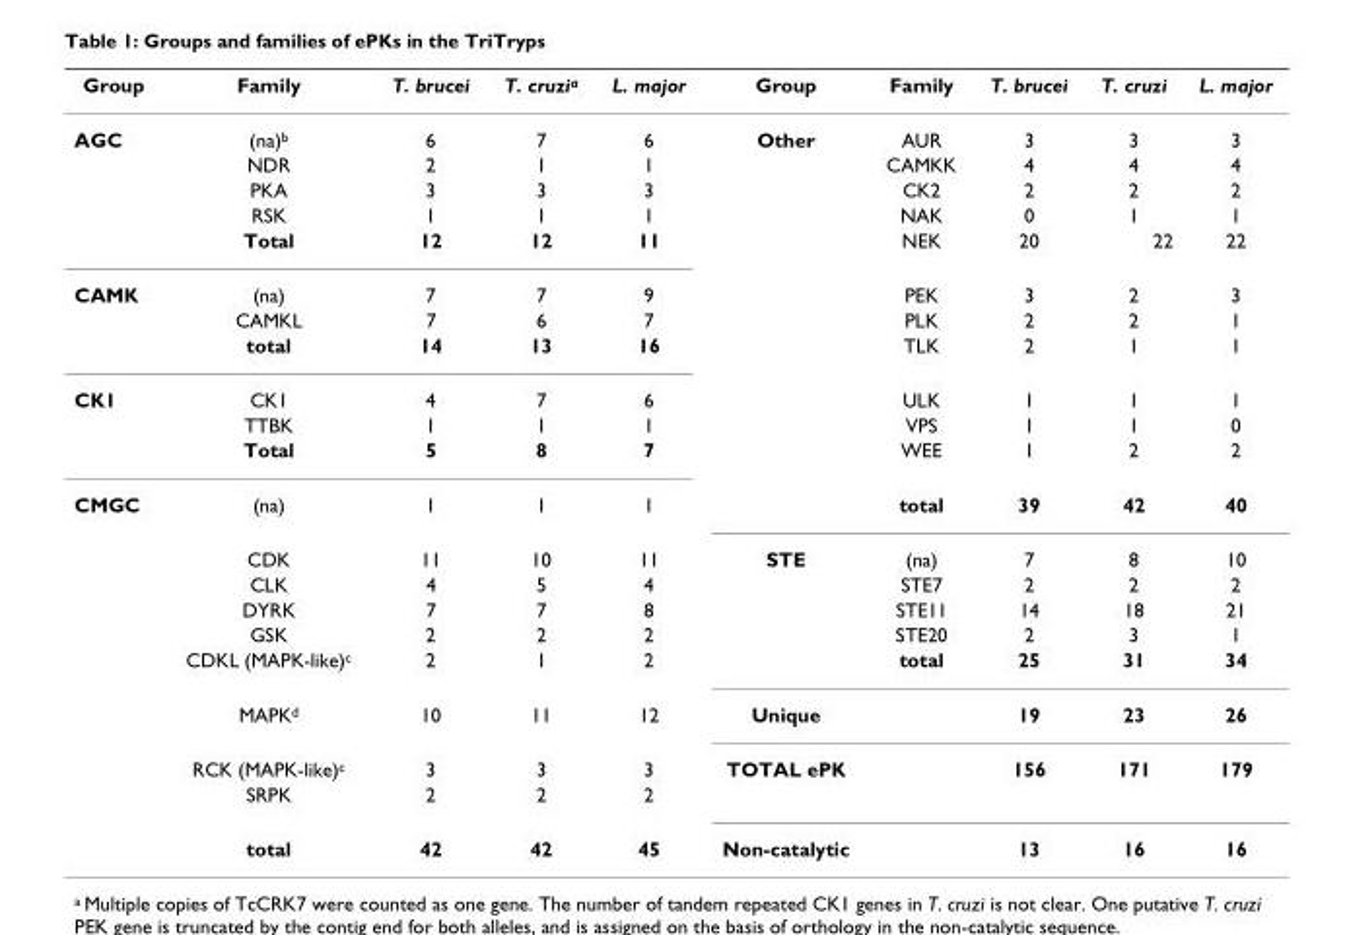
<table><thead><tr><td>Group</td><td>Family</td><td>T. brucei</td><td>T. cruzi<sup>a</sup></td><td>L. major</td><td>Group</td><td>Family</td><td>T. brucei</td><td>T. cruzi</td><td>L. major</td></tr></thead><tbody><tr><td rowspan="5">AGC</td><td>(na)<sup>b</sup></td><td>6</td><td>7</td><td>6</td><td>Other</td><td>AUR</td><td>3</td><td>3</td><td>3</td></tr><tr><td>NDR</td><td>2</td><td>1</td><td>1</td><td></td><td>CAMKK</td><td>4</td><td>4</td><td>4</td></tr><tr><td>PKA</td><td>3</td><td>3</td><td>3</td><td></td><td>CK2</td><td>2</td><td>2</td><td>2</td></tr><tr><td>RSK</td><td>1</td><td>1</td><td>1</td><td></td><td>NAK</td><td>0</td><td>1</td><td>1</td></tr><tr><td>Total</td><td>12</td><td>12</td><td>11</td><td></td><td>NEK</td><td>20</td><td>22</td><td>22</td></tr><tr><td rowspan="3">CAMK</td><td>(na)</td><td>7</td><td>7</td><td>9</td><td></td><td>PEK</td><td>3</td><td>2</td><td>3</td></tr><tr><td>CAMKL</td><td>7</td><td>6</td><td>7</td><td></td><td>PLK</td><td>2</td><td>2</td><td>1</td></tr><tr><td>total</td><td>14</td><td>13</td><td>16</td><td></td><td>TLK</td><td>2</td><td>1</td><td>1</td></tr><tr><td rowspan="3">CK1</td><td>CK1</td><td>4</td><td>7</td><td>6</td><td></td><td>ULK</td><td>1</td><td>1</td><td>1</td></tr><tr><td>TTBK</td><td>1</td><td>1</td><td>1</td><td></td><td>VPS</td><td>1</td><td>1</td><td>0</td></tr><tr><td>Total</td><td>5</td><td>8</td><td>7</td><td></td><td>WEE</td><td>1</td><td>2</td><td>2</td></tr><tr><td rowspan="10">CMGC</td><td>(na)</td><td>1</td><td>1</td><td>1</td><td></td><td>total</td><td>39</td><td>42</td><td>40</td></tr><tr><td>CDK</td><td>11</td><td>10</td><td>11</td><td>STE</td><td>(na)</td><td>7</td><td>8</td><td>10</td></tr><tr><td>CLK</td><td>4</td><td>5</td><td>4</td><td></td><td>STE7</td><td>2</td><td>2</td><td>2</td></tr><tr><td>DYRK</td><td>7</td><td>7</td><td>8</td><td></td><td>STE11</td><td>14</td><td>18</td><td>21</td></tr><tr><td>GSK</td><td>2</td><td>2</td><td>2</td><td></td><td>STE20</td><td>2</td><td>3</td><td>1</td></tr><tr><td>CDKL (MAPK-like)<sup>c</sup></td><td>2</td><td>1</td><td>2</td><td></td><td>total</td><td>25</td><td>31</td><td>34</td></tr><tr><td>MAPK<sup>d</sup></td><td>10</td><td>11</td><td>12</td><td>Unique</td><td></td><td>19</td><td>23</td><td>26</td></tr><tr><td>RCK (MAPK-like)<sup>c</sup></td><td>3</td><td>3</td><td>3</td><td>TOTAL ePK</td><td></td><td>156</td><td>171</td><td>179</td></tr><tr><td>SRPK</td><td>2</td><td>2</td><td>2</td><td></td><td></td><td></td><td></td><td></td></tr><tr><td>total</td><td>42</td><td>42</td><td>45</td><td>Non-catalytic</td><td></td><td>13</td><td>16</td><td>16</td></tr></tbody></table>